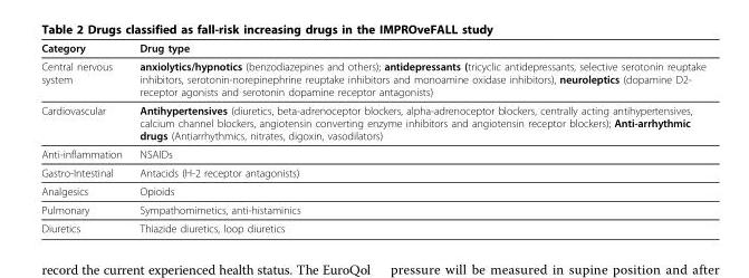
<table><thead><tr><td>Category</td><td>Drug type</td></tr></thead><tbody><tr><td>Central nervous system</td><td>anxiolytics/hypnotics (benzodiazepines and others); antidepressants (tricyclic antidepressants, selective serotonin reuptake inhibitors, serotonin-norepinephrine reuptake inhibitors and monoamine oxidase inhibitors), neuroleptics (dopamine D2- receptor agonists and serotonin dopamine receptor antagonists)</td></tr><tr><td>Cardiovascular</td><td>Antihypertensives (diuretics, beta-adrenoceptor blockers, alpha-adrenoceptor blockers, centrally acting antihypertensives, calcium channel blockers, angiotensin converting enzyme inhibitors and angiotensin receptor blockers); Anti-arrhythmic drugs (Antiarrhythmics, nitrates, digoxin, vasodilators)</td></tr><tr><td>Anti-inflammation</td><td>NSAIDs</td></tr><tr><td>Gastro-Intestinal</td><td>Antacids (H-2 receptor antagonists)</td></tr><tr><td>Analgesics</td><td>Opioids</td></tr><tr><td>Pulmonary</td><td>Sympathomimetics, anti-histaminics</td></tr><tr><td>Diuretics</td><td>Thiazide diuretics, loop diuretics</td></tr></tbody></table>